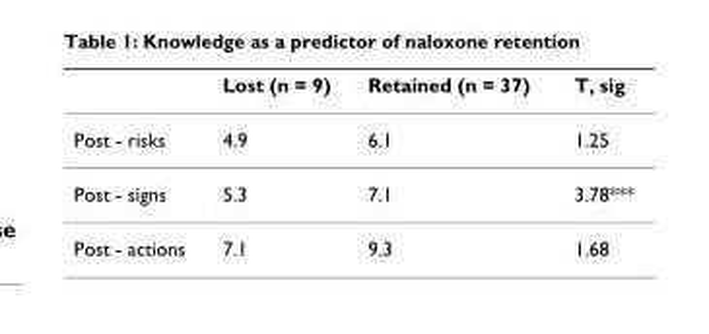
<table><thead><tr><td></td><td>Lost (n = 9)</td><td>Retained (n = 37)</td><td>T, sig</td></tr></thead><tbody><tr><td>Post - risks</td><td>4.9</td><td>6.1</td><td>1.25</td></tr><tr><td>Post - signs</td><td>5.3</td><td>7.1</td><td>3.78***</td></tr><tr><td>Post - actions</td><td>7.1</td><td>9.3</td><td>1.68</td></tr></tbody></table>